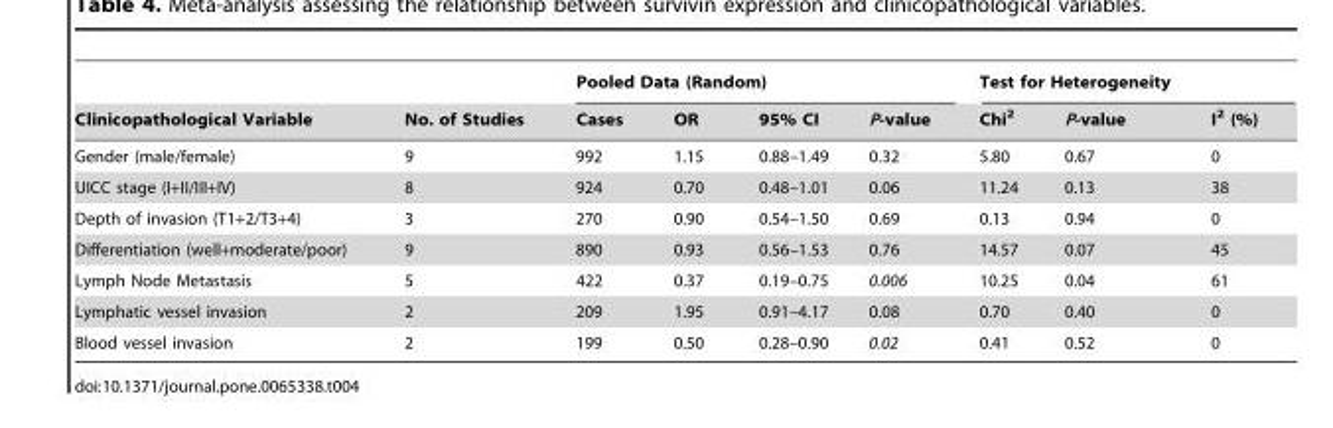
<table><thead><tr><td rowspan="2">Clinicopathological Variable</td><td rowspan="2">No. of Studies</td><td colspan="3">Pooled Data (Random)</td><td rowspan="2">P-value</td><td colspan="2">Test for Heterogeneity</td><td rowspan="2">I<sup>2</sup> (%)</td></tr><tr><td>Cases</td><td>OR</td><td>95% CI</td><td>Chi<sup>2</sup></td><td>P-value</td></tr></thead><tbody><tr><td>Gender (male/female)</td><td>9</td><td>992</td><td>1.15</td><td>0.88–1.49</td><td>0.32</td><td>5.80</td><td>0.67</td><td>0</td></tr><tr><td>UICC stage (I+II/III+IV)</td><td>8</td><td>924</td><td>0.70</td><td>0.48–1.01</td><td>0.06</td><td>11.24</td><td>0.13</td><td>38</td></tr><tr><td>Depth of invasion (T1+2/T3+4)</td><td>3</td><td>270</td><td>0.90</td><td>0.54–1.50</td><td>0.69</td><td>0.13</td><td>0.94</td><td>0</td></tr><tr><td>Differentiation (well+moderate/poor)</td><td>9</td><td>890</td><td>0.93</td><td>0.56–1.53</td><td>0.76</td><td>14.57</td><td>0.07</td><td>45</td></tr><tr><td>Lymph Node Metastasis</td><td>5</td><td>422</td><td>0.37</td><td>0.19–0.75</td><td>0.006</td><td>10.25</td><td>0.04</td><td>61</td></tr><tr><td>Lymphatic vessel invasion</td><td>2</td><td>209</td><td>1.95</td><td>0.91–4.17</td><td>0.08</td><td>0.70</td><td>0.40</td><td>0</td></tr><tr><td>Blood vessel invasion</td><td>2</td><td>199</td><td>0.50</td><td>0.28–0.90</td><td>0.02</td><td>0.41</td><td>0.52</td><td>0</td></tr></tbody></table>